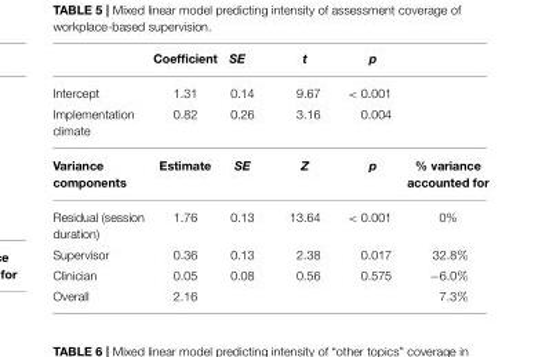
<table><thead><tr><td></td><td>Coefficient</td><td>SE</td><td>t</td><td>p</td><td></td></tr></thead><tbody><tr><td>Intercept</td><td>1.31</td><td>0.14</td><td>9.67</td><td>&lt; 0.001</td><td></td></tr><tr><td>Implementation climate</td><td>0.82</td><td>0.26</td><td>3.16</td><td>0.004</td><td></td></tr><tr><td>Variance components</td><td>Estimate</td><td>SE</td><td>Z</td><td>p</td><td>% variance accounted for</td></tr><tr><td>Residual (session duration)</td><td>1.76</td><td>0.13</td><td>13.64</td><td>&lt; 0.001</td><td>0%</td></tr><tr><td>Supervisor</td><td>0.36</td><td>0.13</td><td>2.38</td><td>0.017</td><td>32.8%</td></tr><tr><td>Clinician</td><td>0.05</td><td>0.08</td><td>0.56</td><td>0.575</td><td>−6.0%</td></tr><tr><td>Overall</td><td>2.16</td><td></td><td></td><td></td><td>7.3%</td></tr></tbody></table>